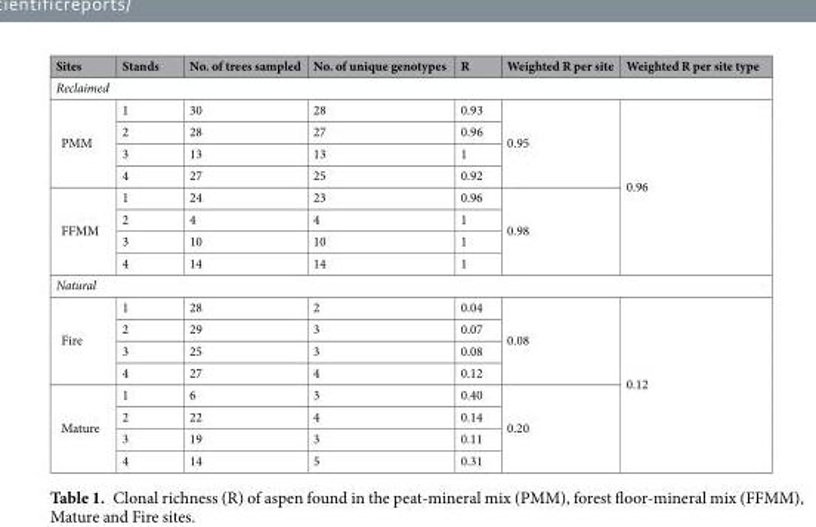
<table><thead><tr><td>Sites</td><td>Stands</td><td>No. of trees sampled</td><td>No. of unique genotypes</td><td>R</td><td>Weighted R per site</td><td>Weighted R per site type</td></tr></thead><tbody><tr><td colspan="7">Reclaimed</td></tr><tr><td rowspan="4">PMM</td><td>1</td><td>30</td><td>28</td><td>0.93</td><td rowspan="4">0.95</td><td rowspan="8">0.96</td></tr><tr><td>2</td><td>28</td><td>27</td><td>0.96</td></tr><tr><td>3</td><td>13</td><td>13</td><td>1</td></tr><tr><td>4</td><td>27</td><td>25</td><td>0.92</td></tr><tr><td rowspan="4">FFMM</td><td>1</td><td>24</td><td>23</td><td>0.96</td><td rowspan="4">0.98</td></tr><tr><td>2</td><td>4</td><td>4</td><td>1</td></tr><tr><td>3</td><td>10</td><td>10</td><td>1</td></tr><tr><td>4</td><td>14</td><td>14</td><td>1</td></tr><tr><td colspan="7">Natural</td></tr><tr><td rowspan="4">Fire</td><td>1</td><td>28</td><td>2</td><td>0.04</td><td rowspan="4">0.08</td><td rowspan="8">0.12</td></tr><tr><td>2</td><td>29</td><td>3</td><td>0.07</td></tr><tr><td>3</td><td>25</td><td>3</td><td>0.08</td></tr><tr><td>4</td><td>27</td><td>4</td><td>0.12</td></tr><tr><td rowspan="4">Mature</td><td>1</td><td>6</td><td>3</td><td>0.40</td><td rowspan="4">0.20</td></tr><tr><td>2</td><td>22</td><td>4</td><td>0.14</td></tr><tr><td>3</td><td>19</td><td>3</td><td>0.11</td></tr><tr><td>4</td><td>14</td><td>5</td><td>0.31</td></tr></tbody></table>